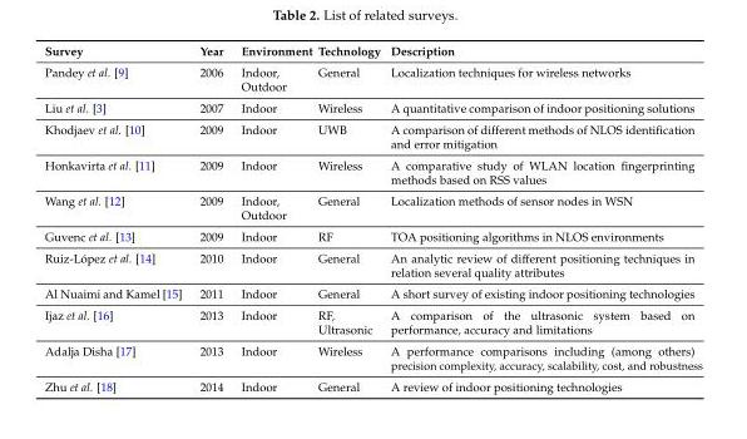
<table><thead><tr><td>Survey</td><td>Year</td><td>Environment</td><td>Technology</td><td>Description</td></tr></thead><tbody><tr><td>Pandey et al. [9]</td><td>2006</td><td>Indoor, Outdoor</td><td>General</td><td>Localization techniques for wireless networks</td></tr><tr><td>Liu et al. [3]</td><td>2007</td><td>Indoor</td><td>Wireless</td><td>A quantitative comparison of indoor positioning solutions</td></tr><tr><td>Khodjaev et al. [10]</td><td>2009</td><td>Indoor</td><td>UWB</td><td>A comparison of different methods of NLOS identification and error mitigation</td></tr><tr><td>Honkavirta et al. [11]</td><td>2009</td><td>Indoor</td><td>Wireless</td><td>A comparative study of WLAN location fingerprinting methods based on RSS values</td></tr><tr><td>Wang et al. [12]</td><td>2009</td><td>Indoor, Outdoor</td><td>General</td><td>Localization methods of sensor nodes in WSN</td></tr><tr><td>Guvenc et al. [13]</td><td>2009</td><td>Indoor</td><td>RF</td><td>TOA positioning algorithms in NLOS environments</td></tr><tr><td>Ruiz-López et al. [14]</td><td>2010</td><td>Indoor</td><td>General</td><td>An analytic review of different positioning techniques in relation several quality attributes</td></tr><tr><td>Al Nuaimi and Kamel [15]</td><td>2011</td><td>Indoor</td><td>General</td><td>A short survey of existing indoor positioning technologies</td></tr><tr><td>Ijaz et al. [16]</td><td>2013</td><td>Indoor</td><td>RF, Ultrasonic</td><td>A comparison of the ultrasonic system based on performance, accuracy and limitations</td></tr><tr><td>Adalja Disha [17]</td><td>2013</td><td>Indoor</td><td>Wireless</td><td>A performance comparisons including (among others) precision complexity, accuracy, scalability, cost, and robustness</td></tr><tr><td>Zhu et al. [18]</td><td>2014</td><td>Indoor</td><td>General</td><td>A review of indoor positioning technologies</td></tr></tbody></table>